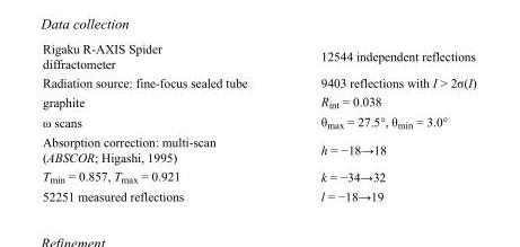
<table><tbody><tr><td>Rigaku R-AXIS Spider diffractometer</td><td>12544 independent reflections</td></tr><tr><td>Radiation source: fine-focus sealed tube</td><td>9403 reflections with I &gt; 2σ(I)</td></tr><tr><td>graphite</td><td>R<sub>int</sub> = 0.038</td></tr><tr><td>ω scans</td><td>θ<sub>max</sub> = 27.5°, θ<sub>min</sub> = 3.0°</td></tr><tr><td>Absorption correction: multi-scan (ABSCOR; Higashi, 1995)</td><td>h = −18→18</td></tr><tr><td>T<sub>min</sub> = 0.857, T<sub>max</sub> = 0.921</td><td>k = −34→32</td></tr><tr><td>52251 measured reflections</td><td>l = −18→19</td></tr></tbody></table>